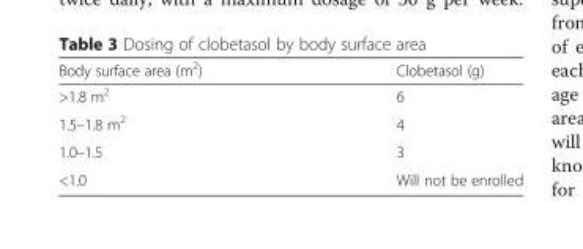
<table><thead><tr><td>Body surface area (m<sup>2</sup>)</td><td>Clobetasol (g)</td></tr></thead><tbody><tr><td>&gt;1.8 m<sup>2</sup></td><td>6</td></tr><tr><td>1.5–1.8 m<sup>2</sup></td><td>4</td></tr><tr><td>1.0–1.5</td><td>3</td></tr><tr><td>&lt;1.0</td><td>Will not be enrolled</td></tr></tbody></table>